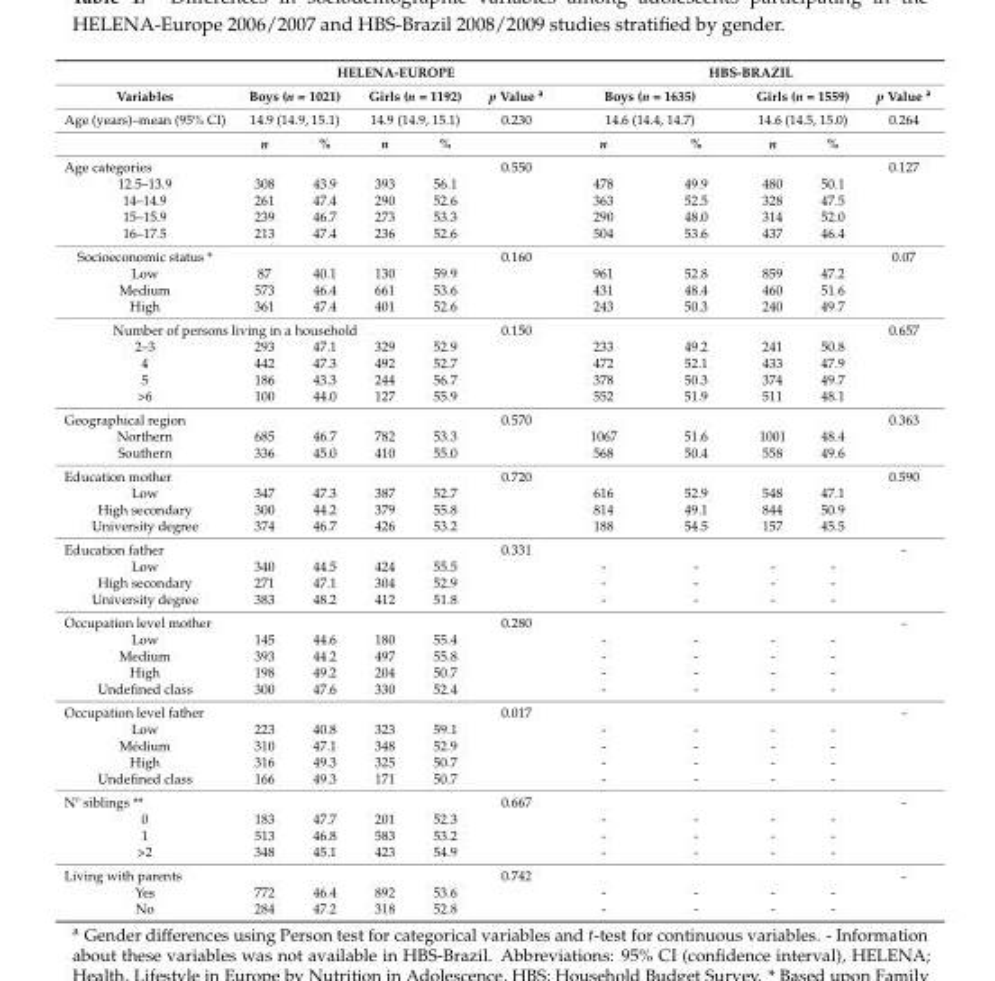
<table><thead><tr><td rowspan="4">Variables Age (years)–mean (95% CI)</td><td colspan="5">HELENA-EUROPE</td><td colspan="5">HBS-BRAZIL</td></tr><tr><td rowspan="2" colspan="2">Boys (n = 1021) 14.9 (14.9, 15.1)</td><td rowspan="2" colspan="2">Girls (n = 1192) 14.9 (14.9, 15.1)</td><td rowspan="3">p Value <sup>a</sup> 0.230</td><td rowspan="2" colspan="2">Boys (n = 1635) 14.6 (14.4, 14.7)</td><td rowspan="2" colspan="2">Girls (n = 1559) 14.6 (14.5, 15.0)</td><td rowspan="3">p Value <sup>a</sup> 0.264</td></tr><tr></tr><tr><td>n</td><td>%</td><td>n</td><td>%</td><td>n</td><td>%</td><td>n</td><td>%</td></tr></thead><tbody><tr><td>Age categories</td><td></td><td></td><td></td><td></td><td>0.550</td><td></td><td></td><td></td><td></td><td>0.127</td></tr><tr><td>12.5–13.9</td><td>308</td><td>43.9</td><td>393</td><td>56.1</td><td></td><td>478</td><td>49.9</td><td>480</td><td>50.1</td><td></td></tr><tr><td>14–14.9</td><td>261</td><td>47.4</td><td>290</td><td>52.6</td><td></td><td>363</td><td>52.5</td><td>328</td><td>47.5</td><td></td></tr><tr><td>15–15.9</td><td>239</td><td>46.7</td><td>273</td><td>53.3</td><td></td><td>290</td><td>48.0</td><td>314</td><td>52.0</td><td></td></tr><tr><td>16–17.5</td><td>213</td><td>47.4</td><td>236</td><td>52.6</td><td></td><td>504</td><td>53.6</td><td>437</td><td>46.4</td><td></td></tr><tr><td>Socioeconomic status *</td><td></td><td></td><td></td><td></td><td>0.160</td><td></td><td></td><td></td><td></td><td>0.07</td></tr><tr><td>Low</td><td>87</td><td>40.1</td><td>130</td><td>59.9</td><td></td><td>961</td><td>52.8</td><td>859</td><td>47.2</td><td></td></tr><tr><td>Medium</td><td>573</td><td>46.4</td><td>661</td><td>53.6</td><td></td><td>431</td><td>48.4</td><td>460</td><td>51.6</td><td></td></tr><tr><td>High</td><td>361</td><td>47.4</td><td>401</td><td>52.6</td><td></td><td>243</td><td>50.3</td><td>240</td><td>49.7</td><td></td></tr><tr><td colspan="4">Number of persons living in a household</td><td></td><td>0.150</td><td></td><td></td><td></td><td></td><td>0.657</td></tr><tr><td>2–3</td><td>293</td><td>47.1</td><td>329</td><td>52.9</td><td></td><td>233</td><td>49.2</td><td>241</td><td>50.8</td><td></td></tr><tr><td>4</td><td>442</td><td>47.3</td><td>492</td><td>52.7</td><td></td><td>472</td><td>52.1</td><td>433</td><td>47.9</td><td></td></tr><tr><td>5</td><td>186</td><td>43.3</td><td>244</td><td>56.7</td><td></td><td>378</td><td>50.3</td><td>374</td><td>49.7</td><td></td></tr><tr><td>&gt;6</td><td>100</td><td>44.0</td><td>127</td><td>55.9</td><td></td><td>552</td><td>51.9</td><td>511</td><td>48.1</td><td></td></tr><tr><td>Geographical region</td><td></td><td></td><td></td><td></td><td>0.570</td><td></td><td></td><td></td><td></td><td>0.363</td></tr><tr><td>Northern</td><td>685</td><td>46.7</td><td>782</td><td>53.3</td><td></td><td>1067</td><td>51.6</td><td>1001</td><td>48.4</td><td></td></tr><tr><td>Southern</td><td>336</td><td>45.0</td><td>410</td><td>55.0</td><td></td><td>568</td><td>50.4</td><td>558</td><td>49.6</td><td></td></tr><tr><td>Education mother</td><td></td><td></td><td></td><td></td><td>0.720</td><td></td><td></td><td></td><td></td><td>0.590</td></tr><tr><td>Low</td><td>347</td><td>47.3</td><td>387</td><td>52.7</td><td></td><td>616</td><td>52.9</td><td>548</td><td>47.1</td><td></td></tr><tr><td>High secondary</td><td>300</td><td>44.2</td><td>379</td><td>55.8</td><td></td><td>814</td><td>49.1</td><td>844</td><td>50.9</td><td></td></tr><tr><td>University degree</td><td>374</td><td>46.7</td><td>426</td><td>53.2</td><td></td><td>188</td><td>54.5</td><td>157</td><td>45.5</td><td></td></tr><tr><td>Education father</td><td></td><td></td><td></td><td></td><td>0.331</td><td></td><td></td><td></td><td></td><td>-</td></tr><tr><td>Low</td><td>340</td><td>44.5</td><td>424</td><td>55.5</td><td></td><td>-</td><td>-</td><td>-</td><td>-</td><td></td></tr><tr><td>High secondary</td><td>271</td><td>47.1</td><td>304</td><td>52.9</td><td></td><td>-</td><td>-</td><td>-</td><td>-</td><td></td></tr><tr><td>University degree</td><td>383</td><td>48.2</td><td>412</td><td>51.8</td><td></td><td>-</td><td>-</td><td>-</td><td>-</td><td></td></tr><tr><td>Occupation level mother</td><td></td><td></td><td></td><td></td><td>0.280</td><td></td><td></td><td></td><td></td><td>-</td></tr><tr><td>Low</td><td>145</td><td>44.6</td><td>180</td><td>55.4</td><td></td><td>-</td><td>-</td><td>-</td><td>-</td><td></td></tr><tr><td>Medium</td><td>393</td><td>44.2</td><td>497</td><td>55.8</td><td></td><td>-</td><td>-</td><td>-</td><td>-</td><td></td></tr><tr><td>High</td><td>198</td><td>49.2</td><td>204</td><td>50.7</td><td></td><td>-</td><td>-</td><td>-</td><td>-</td><td></td></tr><tr><td>Undefined class</td><td>300</td><td>47.6</td><td>330</td><td>52.4</td><td></td><td>-</td><td>-</td><td>-</td><td>-</td><td></td></tr><tr><td>Occupation level father</td><td></td><td></td><td></td><td></td><td>0.017</td><td></td><td></td><td></td><td></td><td>-</td></tr><tr><td>Low</td><td>223</td><td>40.8</td><td>323</td><td>59.1</td><td></td><td>-</td><td>-</td><td>-</td><td>-</td><td></td></tr><tr><td>Médium</td><td>310</td><td>47.1</td><td>348</td><td>52.9</td><td></td><td>-</td><td>-</td><td>-</td><td>-</td><td></td></tr><tr><td>High</td><td>316</td><td>49.3</td><td>325</td><td>50.7</td><td></td><td>-</td><td>-</td><td>-</td><td>-</td><td></td></tr><tr><td>Undefined class</td><td>166</td><td>49.3</td><td>171</td><td>50.7</td><td></td><td>-</td><td>-</td><td>-</td><td>-</td><td></td></tr><tr><td>Nº siblings **</td><td></td><td></td><td></td><td></td><td>0.667</td><td></td><td></td><td></td><td></td><td>-</td></tr><tr><td>0</td><td>183</td><td>47.7</td><td>201</td><td>52.3</td><td></td><td>-</td><td>-</td><td>-</td><td>-</td><td></td></tr><tr><td>1</td><td>513</td><td>46.8</td><td>583</td><td>53.2</td><td></td><td>-</td><td>-</td><td>-</td><td>-</td><td></td></tr><tr><td>&gt;2</td><td>348</td><td>45.1</td><td>423</td><td>54.9</td><td></td><td>-</td><td>-</td><td>-</td><td>-</td><td></td></tr><tr><td>Living with parents</td><td></td><td></td><td></td><td></td><td>0.742</td><td></td><td></td><td></td><td></td><td>-</td></tr><tr><td>Yes</td><td>772</td><td>46.4</td><td>892</td><td>53.6</td><td></td><td>-</td><td>-</td><td>-</td><td>-</td><td></td></tr><tr><td>No</td><td>284</td><td>47.2</td><td>318</td><td>52.8</td><td></td><td>-</td><td>-</td><td>-</td><td>-</td><td></td></tr></tbody></table>